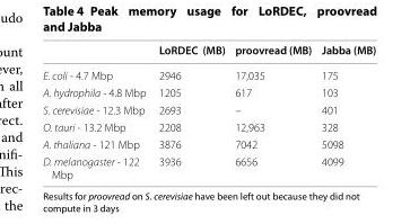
<table><thead><tr><td></td><td>LoRDEC (MB)</td><td>proovread (MB)</td><td>Jabba (MB)</td></tr></thead><tbody><tr><td>E. coli - 4.7 Mbp</td><td>2946</td><td>17,035</td><td>175</td></tr><tr><td>A. hydrophila - 4.8 Mbp</td><td>1205</td><td>617</td><td>103</td></tr><tr><td>S. cerevisiae - 12.3 Mbp</td><td>2693</td><td>–</td><td>401</td></tr><tr><td>O. tauri - 13.2 Mbp</td><td>2208</td><td>12,963</td><td>328</td></tr><tr><td>A. thaliana - 121 Mbp</td><td>3876</td><td>7042</td><td>5098</td></tr><tr><td>D. melanogaster - 122 Mbp</td><td>3936</td><td>6656</td><td>4099</td></tr></tbody></table>